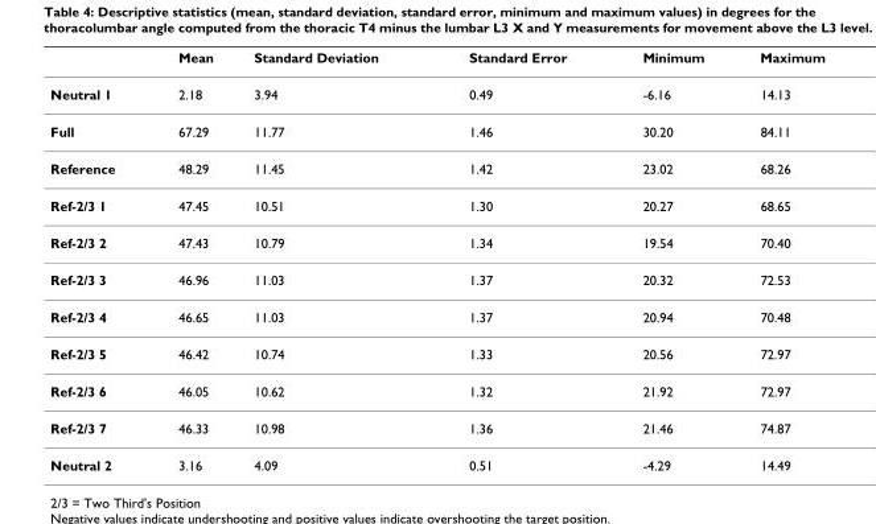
<table><thead><tr><td></td><td>Mean</td><td>Standard Deviation</td><td>Standard Error</td><td>Minimum</td><td>Maximum</td></tr></thead><tbody><tr><td>Neutral 1</td><td>2.18</td><td>3.94</td><td>0.49</td><td>-6.16</td><td>14.13</td></tr><tr><td>Full</td><td>67.29</td><td>11.77</td><td>1.46</td><td>30.20</td><td>84.11</td></tr><tr><td>Reference</td><td>48.29</td><td>11.45</td><td>1.42</td><td>23.02</td><td>68.26</td></tr><tr><td>Ref-2/3 1</td><td>47.45</td><td>10.51</td><td>1.30</td><td>20.27</td><td>68.65</td></tr><tr><td>Ref-2/3 2</td><td>47.43</td><td>10.79</td><td>1.34</td><td>19.54</td><td>70.40</td></tr><tr><td>Ref-2/3 3</td><td>46.96</td><td>11.03</td><td>1.37</td><td>20.32</td><td>72.53</td></tr><tr><td>Ref-2/3 4</td><td>46.65</td><td>11.03</td><td>1.37</td><td>20.94</td><td>70.48</td></tr><tr><td>Ref-2/3 5</td><td>46.42</td><td>10.74</td><td>1.33</td><td>20.56</td><td>72.97</td></tr><tr><td>Ref-2/3 6</td><td>46.05</td><td>10.62</td><td>1.32</td><td>21.92</td><td>72.97</td></tr><tr><td>Ref-2/3 7</td><td>46.33</td><td>10.98</td><td>1.36</td><td>21.46</td><td>74.87</td></tr><tr><td>Neutral 2</td><td>3.16</td><td>4.09</td><td>0.51</td><td>-4.29</td><td>14.49</td></tr></tbody></table>